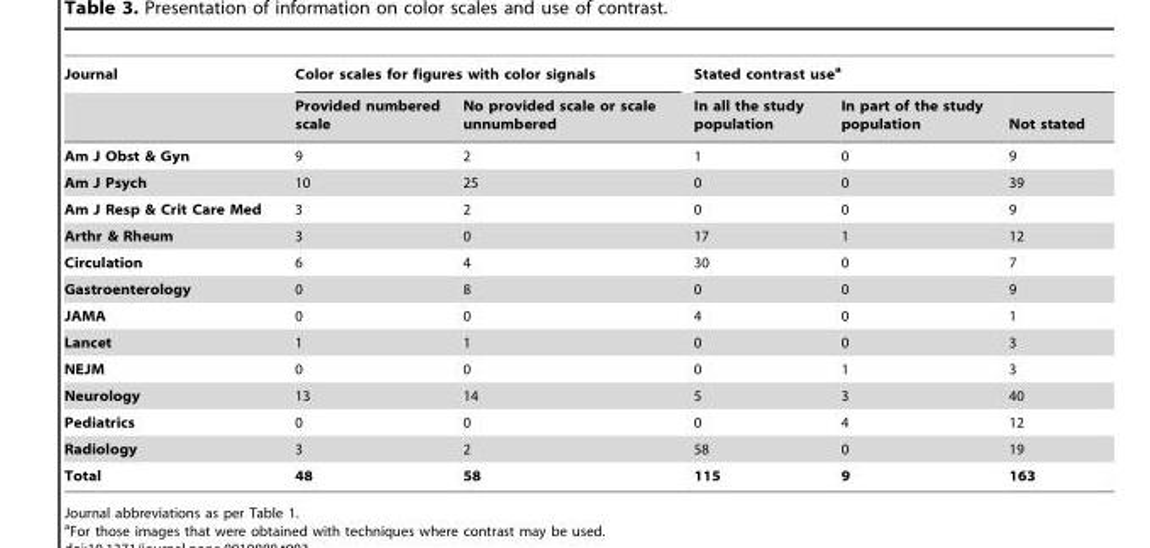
<table><thead><tr><td rowspan="2">Journal</td><td colspan="2">Color scales for figures with color signals</td><td colspan="3">Stated contrast use<sup>a</sup></td></tr><tr><td>Provided numbered scale</td><td>No provided scale or scale unnumbered</td><td>In all the study population</td><td>In part of the study population</td><td>Not stated</td></tr></thead><tbody><tr><td>Am J Obst &amp; Gyn</td><td>9</td><td>2</td><td>1</td><td>0</td><td>9</td></tr><tr><td>Am J Psych</td><td>10</td><td>25</td><td>0</td><td>0</td><td>39</td></tr><tr><td>Am J Resp &amp; Crit Care Med</td><td>3</td><td>2</td><td>0</td><td>0</td><td>9</td></tr><tr><td>Arthr &amp; Rheum</td><td>3</td><td>0</td><td>17</td><td>1</td><td>12</td></tr><tr><td>Circulation</td><td>6</td><td>4</td><td>30</td><td>0</td><td>7</td></tr><tr><td>Gastroenterology</td><td>0</td><td>8</td><td>0</td><td>0</td><td>9</td></tr><tr><td>JAMA</td><td>0</td><td>0</td><td>4</td><td>0</td><td>1</td></tr><tr><td>Lancet</td><td>1</td><td>1</td><td>0</td><td>0</td><td>3</td></tr><tr><td>NEJM</td><td>0</td><td>0</td><td>0</td><td>1</td><td>3</td></tr><tr><td>Neurology</td><td>13</td><td>14</td><td>5</td><td>3</td><td>40</td></tr><tr><td>Pediatrics</td><td>0</td><td>0</td><td>0</td><td>4</td><td>12</td></tr><tr><td>Radiology</td><td>3</td><td>2</td><td>58</td><td>0</td><td>19</td></tr><tr><td>Total</td><td>48</td><td>58</td><td>115</td><td>9</td><td>163</td></tr></tbody></table>